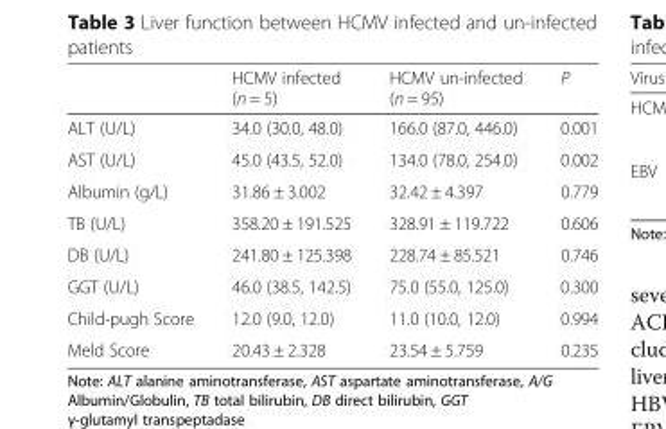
<table><thead><tr><td></td><td>HCMV infected (n = 5)</td><td>HCMV un-infected (n = 95)</td><td>P</td></tr></thead><tbody><tr><td>ALT (U/L)</td><td>34.0 (30.0, 48.0)</td><td>166.0 (87.0, 446.0)</td><td>0.001</td></tr><tr><td>AST (U/L)</td><td>45.0 (43.5, 52.0)</td><td>134.0 (78.0, 254.0)</td><td>0.002</td></tr><tr><td>Albumin (g/L)</td><td>31.86 ± 3.002</td><td>32.42 ± 4.397</td><td>0.779</td></tr><tr><td>TB (U/L)</td><td>358.20 ± 191.525</td><td>328.91 ± 119.722</td><td>0.606</td></tr><tr><td>DB (U/L)</td><td>241.80 ± 125.398</td><td>228.74 ± 85.521</td><td>0.746</td></tr><tr><td>GGT (U/L)</td><td>46.0 (38.5, 142.5)</td><td>75.0 (55.0, 125.0)</td><td>0.300</td></tr><tr><td>Child-pugh Score</td><td>12.0 (9.0, 12.0)</td><td>11.0 (10.0, 12.0)</td><td>0.994</td></tr><tr><td>Meld Score</td><td>20.43 ± 2.328</td><td>23.54 ± 5.759</td><td>0.235</td></tr></tbody></table>